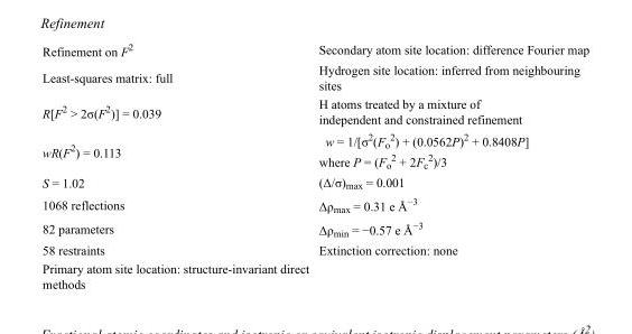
<table><tbody><tr><td>Refinement on F<sup>2</sup></td><td>Secondary atom site location: difference Fourier map</td></tr><tr><td>Least-squares matrix: full</td><td>Hydrogen site location: inferred from neighbouring sites</td></tr><tr><td>R[F<sup>2</sup> &gt; 2σ(F<sup>2</sup>)] = 0.039</td><td>H atoms treated by a mixture of independent and constrained refinement</td></tr><tr><td>wR(F<sup>2</sup>) = 0.113</td><td>w = 1/[σ<sup>2</sup>(F<sub>o</sub> <sup>2</sup>) + (0.0562P)<sup>2</sup> + 0.8408P] where P = (F<sub>o</sub> <sup>2</sup> + 2F<sub>c</sub> <sup>2</sup>)/3</td></tr><tr><td>S = 1.02</td><td>(Δ/σ)<sub>max</sub> = 0.001</td></tr><tr><td>1068 reflections</td><td>Δρ<sub>max</sub> = 0.31 e Å<sup>−3</sup></td></tr><tr><td>82 parameters</td><td>Δρ<sub>min</sub> = −0.57 e Å<sup>−3</sup></td></tr><tr><td>58 restraints</td><td>Extinction correction: none</td></tr><tr><td>Primary atom site location: structure-invariant direct methods</td><td></td></tr></tbody></table>